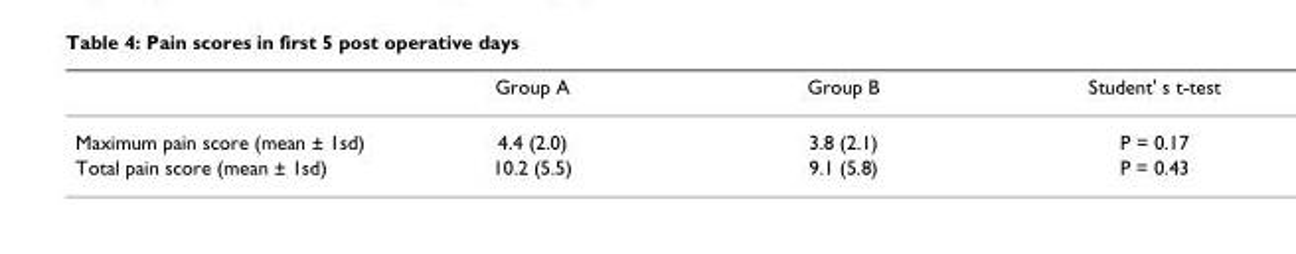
<table><thead><tr><td></td><td>Group A</td><td>Group B</td><td>Student&#x27; s t-test</td></tr></thead><tbody><tr><td>Maximum pain score (mean ± 1sd)</td><td>4.4 (2.0)</td><td>3.8 (2.1)</td><td>P = 0.17</td></tr><tr><td>Total pain score (mean ± 1sd)</td><td>10.2 (5.5)</td><td>9.1 (5.8)</td><td>P = 0.43</td></tr></tbody></table>